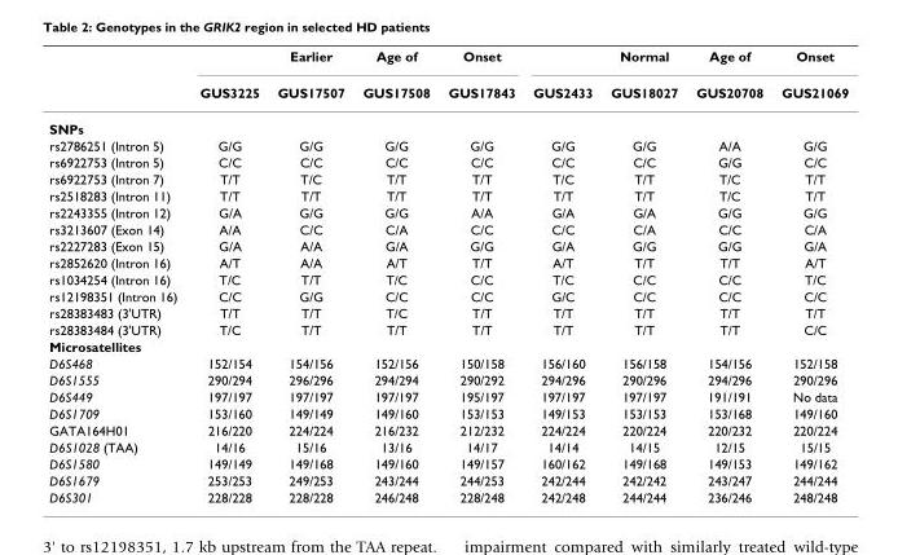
<table><thead><tr><td rowspan="2"></td><td rowspan="2">GUS3225</td><td rowspan="2">Earlier GUS17507</td><td rowspan="2">Age of GUS17508</td><td rowspan="2">Onset GUS17843</td><td rowspan="2">GUS2433</td><td rowspan="2">Normal GUS18027</td><td rowspan="2">Age of GUS20708</td><td rowspan="2">Onset GUS21069</td></tr><tr></tr></thead><tbody><tr><td colspan="9">SNPs</td></tr><tr><td>rs2786251 (Intron 5)</td><td>G/G</td><td>G/G</td><td>G/G</td><td>G/G</td><td>G/G</td><td>G/G</td><td>A/A</td><td>G/G</td></tr><tr><td>rs6922753 (Intron 5)</td><td>C/C</td><td>C/C</td><td>C/C</td><td>C/C</td><td>C/C</td><td>C/C</td><td>G/G</td><td>C/C</td></tr><tr><td>rs6922753 (Intron 7)</td><td>T/T</td><td>T/C</td><td>T/T</td><td>T/T</td><td>T/C</td><td>T/T</td><td>T/C</td><td>T/T</td></tr><tr><td>rs2518283 (Intron 11)</td><td>T/T</td><td>T/T</td><td>T/T</td><td>T/T</td><td>T/T</td><td>T/T</td><td>T/C</td><td>T/T</td></tr><tr><td>rs2243355 (Intron 12)</td><td>G/A</td><td>G/G</td><td>G/G</td><td>A/A</td><td>G/A</td><td>G/A</td><td>G/G</td><td>G/G</td></tr><tr><td>rs3213607 (Exon 14)</td><td>A/A</td><td>C/C</td><td>C/A</td><td>C/C</td><td>C/C</td><td>C/A</td><td>C/C</td><td>C/A</td></tr><tr><td>rs2227283 (Exon 15)</td><td>G/A</td><td>A/A</td><td>G/A</td><td>G/G</td><td>G/A</td><td>G/G</td><td>G/G</td><td>G/A</td></tr><tr><td>rs2852620 (Intron 16)</td><td>A/T</td><td>A/A</td><td>A/T</td><td>T/T</td><td>A/T</td><td>T/T</td><td>T/T</td><td>A/T</td></tr><tr><td>rs1034254 (Intron 16)</td><td>T/C</td><td>T/T</td><td>T/C</td><td>C/C</td><td>T/C</td><td>C/C</td><td>C/C</td><td>T/C</td></tr><tr><td>rs12198351 (Intron 16)</td><td>C/C</td><td>G/G</td><td>C/C</td><td>C/C</td><td>G/C</td><td>C/C</td><td>C/C</td><td>C/C</td></tr><tr><td>rs28383483 (3&#x27;UTR)</td><td>T/T</td><td>T/T</td><td>T/C</td><td>T/T</td><td>T/T</td><td>T/T</td><td>T/T</td><td>T/T</td></tr><tr><td>rs28383484 (3&#x27;UTR)</td><td>T/C</td><td>T/T</td><td>T/T</td><td>T/T</td><td>T/T</td><td>T/T</td><td>T/T</td><td>C/C</td></tr><tr><td colspan="9">Microsatellites</td></tr><tr><td>D6S468</td><td>152/154</td><td>154/156</td><td>152/156</td><td>150/158</td><td>156/160</td><td>156/158</td><td>154/156</td><td>152/158</td></tr><tr><td>D6S1555</td><td>290/294</td><td>296/296</td><td>294/294</td><td>290/292</td><td>294/296</td><td>290/296</td><td>294/296</td><td>290/296</td></tr><tr><td>D6S449</td><td>197/197</td><td>197/197</td><td>197/197</td><td>195/197</td><td>197/197</td><td>197/197</td><td>191/191</td><td>No data</td></tr><tr><td>D6S1709</td><td>153/160</td><td>149/149</td><td>149/160</td><td>153/153</td><td>149/153</td><td>153/153</td><td>153/168</td><td>149/160</td></tr><tr><td>GATA164H01</td><td>216/220</td><td>224/224</td><td>216/232</td><td>212/232</td><td>224/224</td><td>220/224</td><td>220/232</td><td>220/224</td></tr><tr><td>D6S1028 (TAA)</td><td>14/16</td><td>15/16</td><td>13/16</td><td>14/17</td><td>14/14</td><td>14/15</td><td>12/15</td><td>15/15</td></tr><tr><td>D6S1580</td><td>149/149</td><td>149/168</td><td>149/160</td><td>149/157</td><td>160/162</td><td>149/168</td><td>149/153</td><td>149/162</td></tr><tr><td>D6S1679</td><td>253/253</td><td>249/253</td><td>243/244</td><td>244/253</td><td>242/244</td><td>242/242</td><td>243/247</td><td>244/244</td></tr><tr><td>D6S301</td><td>228/228</td><td>228/228</td><td>246/248</td><td>228/248</td><td>242/248</td><td>244/244</td><td>236/246</td><td>248/248</td></tr></tbody></table>